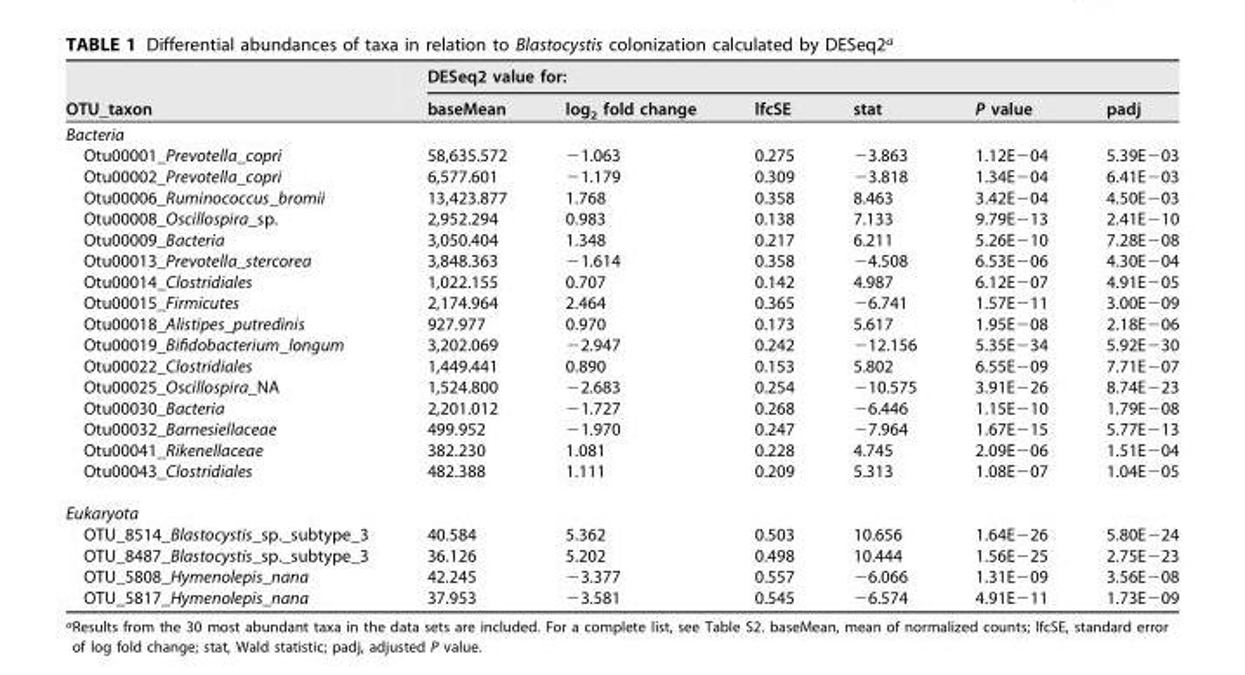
<table><thead><tr><td rowspan="2">OTU_taxon</td><td colspan="6">DESeq2 value for:</td></tr><tr><td>baseMean</td><td>log<sub>2</sub> fold change</td><td>lfcSE</td><td>stat</td><td>P value</td><td>padj</td></tr></thead><tbody><tr><td colspan="7">Bacteria</td></tr><tr><td>Otu00001_Prevotella_copri</td><td>58,635.572</td><td>−1.063</td><td>0.275</td><td>−3.863</td><td>1.12E−04</td><td>5.39E−03</td></tr><tr><td>Otu00002_Prevotella_copri</td><td>6,577.601</td><td>−1.179</td><td>0.309</td><td>−3.818</td><td>1.34E−04</td><td>6.41E−03</td></tr><tr><td>Otu00006_Ruminococcus_bromii</td><td>13,423.877</td><td>1.768</td><td>0.358</td><td>8.463</td><td>3.42E−04</td><td>4.50E−03</td></tr><tr><td>Otu00008_Oscillospira_sp.</td><td>2,952.294</td><td>0.983</td><td>0.138</td><td>7.133</td><td>9.79E−13</td><td>2.41E−10</td></tr><tr><td>Otu00009_Bacteria</td><td>3,050.404</td><td>1.348</td><td>0.217</td><td>6.211</td><td>5.26E−10</td><td>7.28E−08</td></tr><tr><td>Otu00013_Prevotella_stercorea</td><td>3,848.363</td><td>−1.614</td><td>0.358</td><td>−4.508</td><td>6.53E−06</td><td>4.30E−04</td></tr><tr><td>Otu00014_Clostridiales</td><td>1,022.155</td><td>0.707</td><td>0.142</td><td>4.987</td><td>6.12E−07</td><td>4.91E−05</td></tr><tr><td>Otu00015_Firmicutes</td><td>2,174.964</td><td>2.464</td><td>0.365</td><td>−6.741</td><td>1.57E−11</td><td>3.00E−09</td></tr><tr><td>Otu00018_Alistipes_putredinis</td><td>927.977</td><td>0.970</td><td>0.173</td><td>5.617</td><td>1.95E−08</td><td>2.18E−06</td></tr><tr><td>Otu00019_Bifidobacterium_longum</td><td>3,202.069</td><td>−2.947</td><td>0.242</td><td>−12.156</td><td>5.35E−34</td><td>5.92E−30</td></tr><tr><td>Otu00022_Clostridiales</td><td>1,449.441</td><td>0.890</td><td>0.153</td><td>5.802</td><td>6.55E−09</td><td>7.71E−07</td></tr><tr><td>Otu00025_Oscillospira_NA</td><td>1,524.800</td><td>−2.683</td><td>0.254</td><td>−10.575</td><td>3.91E−26</td><td>8.74E−23</td></tr><tr><td>Otu00030_Bacteria</td><td>2,201.012</td><td>−1.727</td><td>0.268</td><td>−6.446</td><td>1.15E−10</td><td>1.79E−08</td></tr><tr><td>Otu00032_Barnesiellaceae</td><td>499.952</td><td>−1.970</td><td>0.247</td><td>−7.964</td><td>1.67E−15</td><td>5.77E−13</td></tr><tr><td>Otu00041_Rikenellaceae</td><td>382.230</td><td>1.081</td><td>0.228</td><td>4.745</td><td>2.09E−06</td><td>1.51E−04</td></tr><tr><td>Otu00043_Clostridiales</td><td>482.388</td><td>1.111</td><td>0.209</td><td>5.313</td><td>1.08E−07</td><td>1.04E−05</td></tr><tr><td colspan="7">Eukaryota</td></tr><tr><td>OTU_8514_Blastocystis_sp._subtype_3</td><td>40.584</td><td>5.362</td><td>0.503</td><td>10.656</td><td>1.64E−26</td><td>5.80E−24</td></tr><tr><td>OTU_8487_Blastocystis_sp._subtype_3</td><td>36.126</td><td>5.202</td><td>0.498</td><td>10.444</td><td>1.56E−25</td><td>2.75E−23</td></tr><tr><td>OTU_5808_Hymenolepis_nana</td><td>42.245</td><td>−3.377</td><td>0.557</td><td>−6.066</td><td>1.31E−09</td><td>3.56E−08</td></tr><tr><td>OTU_5817_Hymenolepis_nana</td><td>37.953</td><td>−3.581</td><td>0.545</td><td>−6.574</td><td>4.91E−11</td><td>1.73E−09</td></tr></tbody></table>